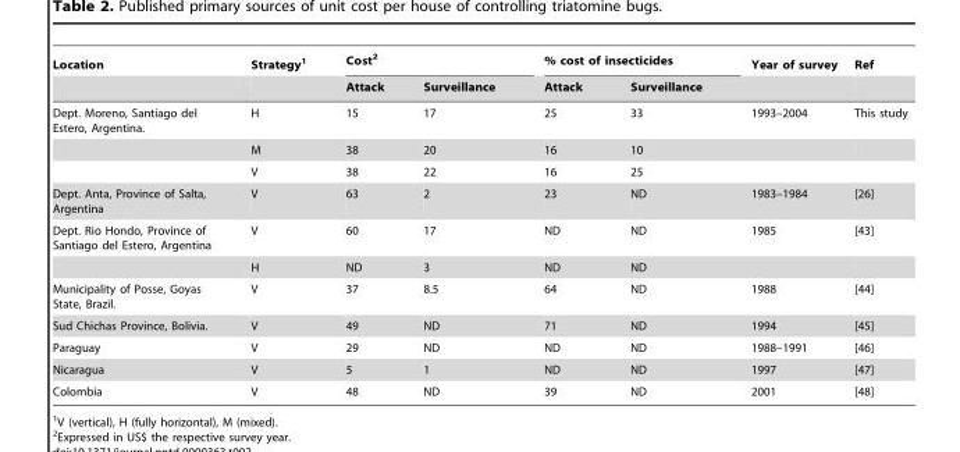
<table><thead><tr><td rowspan="2">Location</td><td rowspan="2">Strategy<sup>1</sup></td><td colspan="2">Cost<sup>2</sup></td><td colspan="2">% cost of insecticides</td><td rowspan="2">Year of survey</td><td rowspan="2">Ref</td></tr><tr><td>Attack</td><td>Surveillance</td><td>Attack</td><td>Surveillance</td></tr></thead><tbody><tr><td rowspan="3">Dept. Moreno, Santiago del Estero, Argentina.</td><td>H</td><td>15</td><td>17</td><td>25</td><td>33</td><td>1993–2004</td><td>This study</td></tr><tr><td>M</td><td>38</td><td>20</td><td>16</td><td>10</td><td></td><td></td></tr><tr><td>V</td><td>38</td><td>22</td><td>16</td><td>25</td><td></td><td></td></tr><tr><td>Dept. Anta, Province of Salta, Argentina</td><td>V</td><td>63</td><td>2</td><td>23</td><td>ND</td><td>1983–1984</td><td>[26]</td></tr><tr><td rowspan="2">Dept. Rio Hondo, Province of Santiago del Estero, Argentina</td><td>V</td><td>60</td><td>17</td><td>ND</td><td>ND</td><td>1985</td><td>[43]</td></tr><tr><td>H</td><td>ND</td><td>3</td><td>ND</td><td>ND</td><td></td><td></td></tr><tr><td>Municipality of Posse, Goyas State, Brazil.</td><td>V</td><td>37</td><td>8.5</td><td>64</td><td>ND</td><td>1988</td><td>[44]</td></tr><tr><td>Sud Chichas Province, Bolivia.</td><td>V</td><td>49</td><td>ND</td><td>71</td><td>ND</td><td>1994</td><td>[45]</td></tr><tr><td>Paraguay</td><td>V</td><td>29</td><td>ND</td><td>ND</td><td>ND</td><td>1988–1991</td><td>[46]</td></tr><tr><td>Nicaragua</td><td>V</td><td>5</td><td>1</td><td>ND</td><td>ND</td><td>1997</td><td>[47]</td></tr><tr><td>Colombia</td><td>V</td><td>48</td><td>ND</td><td>39</td><td>ND</td><td>2001</td><td>[48]</td></tr></tbody></table>